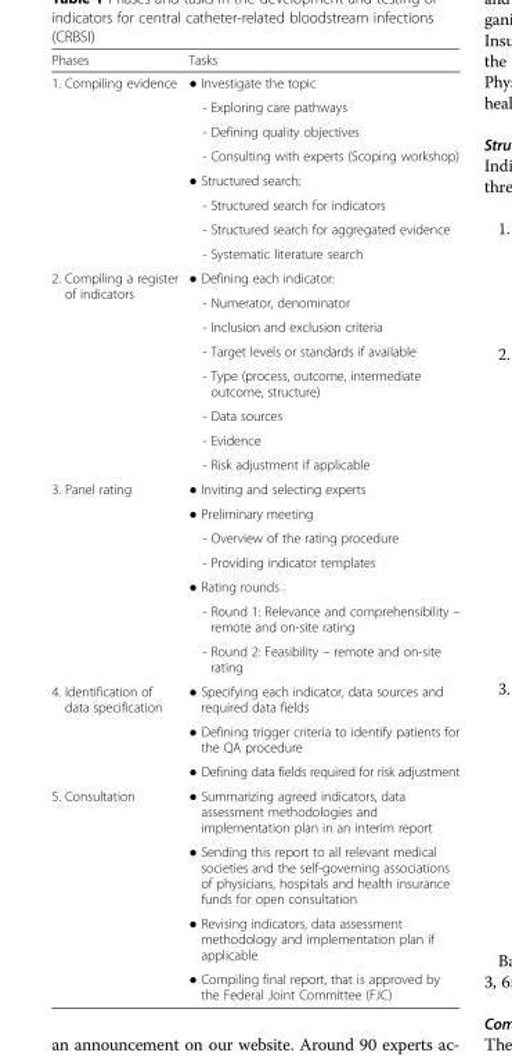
<table><thead><tr><td>Phases</td><td>Tasks</td></tr></thead><tbody><tr><td rowspan="8">1. Compiling evidence</td><td>● Investigate the topic</td></tr><tr><td>- Exploring care pathways</td></tr><tr><td>- Defining quality objectives</td></tr><tr><td>- Consulting with experts (Scoping workshop)</td></tr><tr><td>● Structured search:</td></tr><tr><td>- Structured search for indicators</td></tr><tr><td>- Structured search for aggregated evidence</td></tr><tr><td>- Systematic literature search</td></tr><tr><td rowspan="8">2. Compiling a register of indicators</td><td>● Defining each indicator:</td></tr><tr><td>- Numerator, denominator</td></tr><tr><td>- Inclusion and exclusion criteria</td></tr><tr><td>- Target levels or standards if available</td></tr><tr><td>- Type (process, outcome, intermediate outcome, structure)</td></tr><tr><td>- Data sources</td></tr><tr><td>- Evidence</td></tr><tr><td>- Risk adjustment if applicable</td></tr><tr><td rowspan="7">3. Panel rating</td><td>● Inviting and selecting experts</td></tr><tr><td>● Preliminary meeting</td></tr><tr><td>- Overview of the rating procedure</td></tr><tr><td>- Providing indicator templates</td></tr><tr><td>● Rating rounds</td></tr><tr><td>- Round 1: Relevance and comprehensibility – remote and on-site rating</td></tr><tr><td>- Round 2: Feasibility – remote and on-site rating</td></tr><tr><td rowspan="3">4. Identification of data specification</td><td>● Specifying each indicator, data sources and required data fields</td></tr><tr><td>● Defining trigger criteria to identify patients for the QA procedure</td></tr><tr><td>● Defining data fields required for risk adjustment</td></tr><tr><td rowspan="4">5. Consultation</td><td>● Summarizing agreed indicators, data assessment methodologies and implementation plan in an interim report</td></tr><tr><td>● Sending this report to all relevant medical societies and the self-governing associations of physicians, hospitals and health insurance funds for open consultation</td></tr><tr><td>● Revising indicators, data assessment methodology and implementation plan if applicable</td></tr><tr><td>● Compiling final report, that is approved by the Federal Joint Committee (FJC)</td></tr></tbody></table>